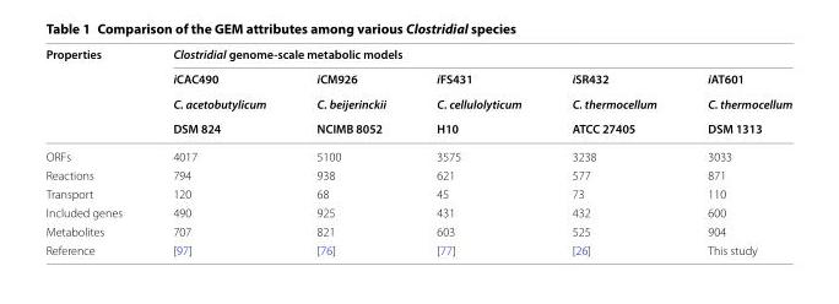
<table><thead><tr><td rowspan="4">Properties</td><td colspan="5">Clostridial genome-scale metabolic models</td></tr><tr><td rowspan="3">iCAC490 C. acetobutylicum DSM 824</td><td rowspan="3">iCM926 C. beijerinckii NCIMB 8052</td><td rowspan="3">iFS431 C. cellulolyticum H10</td><td rowspan="3">iSR432 C. thermocellum ATCC 27405</td><td rowspan="3">iAT601 C. thermocellum DSM 1313</td></tr><tr></tr><tr></tr></thead><tbody><tr><td>ORFs</td><td>4017</td><td>5100</td><td>3575</td><td>3238</td><td>3033</td></tr><tr><td>Reactions</td><td>794</td><td>938</td><td>621</td><td>577</td><td>871</td></tr><tr><td>Transport</td><td>120</td><td>68</td><td>45</td><td>73</td><td>110</td></tr><tr><td>Included genes</td><td>490</td><td>925</td><td>431</td><td>432</td><td>600</td></tr><tr><td>Metabolites</td><td>707</td><td>821</td><td>603</td><td>525</td><td>904</td></tr><tr><td>Reference</td><td>[97]</td><td>[76]</td><td>[77]</td><td>[26]</td><td>This study</td></tr></tbody></table>